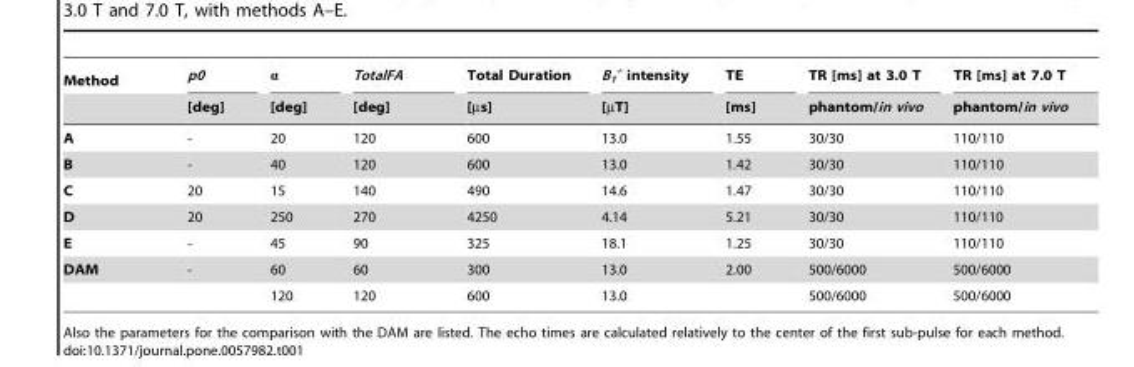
<table><thead><tr><td rowspan="2">Method</td><td rowspan="2">p0 [deg]</td><td rowspan="2">α [deg]</td><td rowspan="2">TotalFA [deg]</td><td rowspan="2">Total Duration [µs]</td><td rowspan="2">B<sub>1</sub> <sup>+</sup> intensity [µT]</td><td rowspan="2">TE [ms]</td><td rowspan="2">TR [ms] at 3.0 T phantom/in vivo</td><td rowspan="2">TR [ms] at 7.0 T phantom/in vivo</td></tr><tr></tr></thead><tbody><tr><td>A</td><td>-</td><td>20</td><td>120</td><td>600</td><td>13.0</td><td>1.55</td><td>30/30</td><td>110/110</td></tr><tr><td>B</td><td>-</td><td>40</td><td>120</td><td>600</td><td>13.0</td><td>1.42</td><td>30/30</td><td>110/110</td></tr><tr><td>C</td><td>20</td><td>15</td><td>140</td><td>490</td><td>14.6</td><td>1.47</td><td>30/30</td><td>110/110</td></tr><tr><td>D</td><td>20</td><td>250</td><td>270</td><td>4250</td><td>4.14</td><td>5.21</td><td>30/30</td><td>110/110</td></tr><tr><td>E</td><td>-</td><td>45</td><td>90</td><td>325</td><td>18.1</td><td>1.25</td><td>30/30</td><td>110/110</td></tr><tr><td rowspan="2">DAM</td><td>-</td><td>60</td><td>60</td><td>300</td><td>13.0</td><td>2.00</td><td>500/6000</td><td>500/6000</td></tr><tr><td></td><td>120</td><td>120</td><td>600</td><td>13.0</td><td></td><td>500/6000</td><td>500/6000</td></tr></tbody></table>